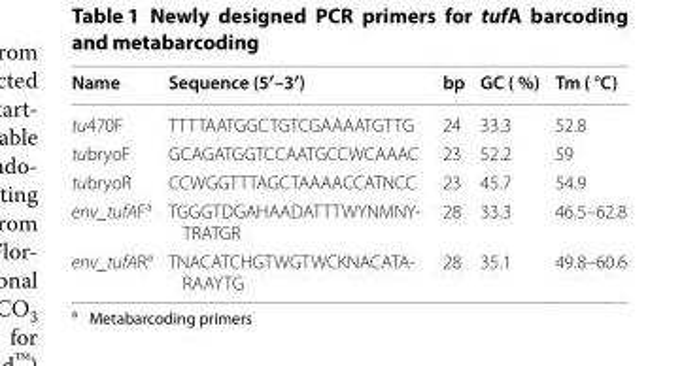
<table><thead><tr><td>Name</td><td>Sequence (5′–3′)</td><td>bp</td><td>GC ( %)</td><td>Tm ( °C)</td></tr></thead><tbody><tr><td>tu470F</td><td>TTTTAATGGCTGTCGAAAATGTTG</td><td>24</td><td>33.3</td><td>52.8</td></tr><tr><td>tubryoF</td><td>GCAGATGGTCCAATGCCWCAAAC</td><td>23</td><td>52.2</td><td>59</td></tr><tr><td>tubryoR</td><td>CCWGGTTTAGCTAAAACCATNCC</td><td>23</td><td>45.7</td><td>54.9</td></tr><tr><td>env_tufAF<sup>a</sup></td><td>TGGGTDGAHAADATTTWYNMNY- TRATGR</td><td>28</td><td>33.3</td><td>46.5–62.8</td></tr><tr><td>env_tufAR<sup>a</sup></td><td>TNACATCHGTWGTWCKNACATA- RAAYTG</td><td>28</td><td>35.1</td><td>49.8–60.6</td></tr></tbody></table>